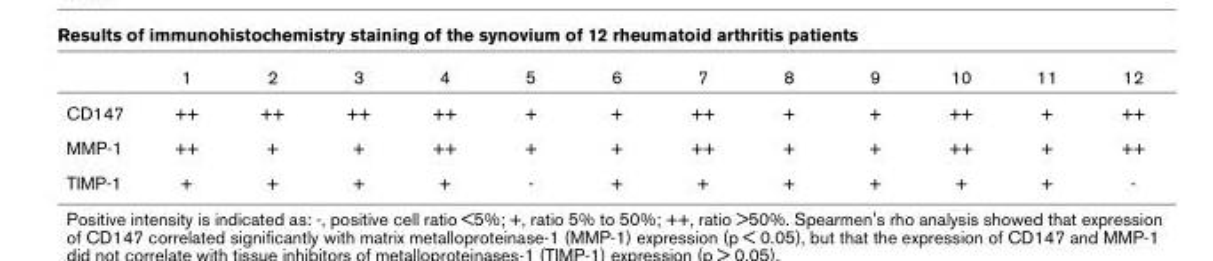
<table><thead><tr><td></td><td>1</td><td>2</td><td>3</td><td>4</td><td>5</td><td>6</td><td>7</td><td>8</td><td>9</td><td>10</td><td>11</td><td>12</td></tr></thead><tbody><tr><td>CD147</td><td>++</td><td>++</td><td>++</td><td>++</td><td>+</td><td>+</td><td>++</td><td>+</td><td>+</td><td>++</td><td>+</td><td>++</td></tr><tr><td>MMP-1</td><td>++</td><td>+</td><td>+</td><td>++</td><td>+</td><td>+</td><td>++</td><td>+</td><td>+</td><td>++</td><td>+</td><td>++</td></tr><tr><td>TIMP-1</td><td>+</td><td>+</td><td>+</td><td>+</td><td>-</td><td>+</td><td>+</td><td>+</td><td>+</td><td>+</td><td>+</td><td>-</td></tr></tbody></table>